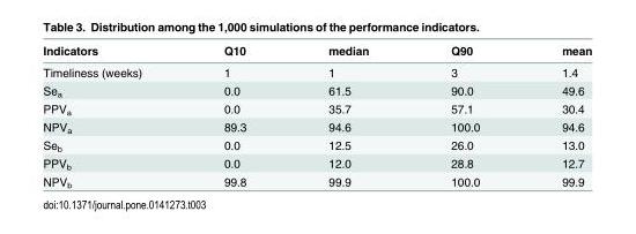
<table><thead><tr><td>Indicators</td><td>Q10</td><td>median</td><td>Q90</td><td>mean</td></tr></thead><tbody><tr><td>Timeliness (weeks)</td><td>1</td><td>1</td><td>3</td><td>1.4</td></tr><tr><td>Se<sub>a</sub></td><td>0.0</td><td>61.5</td><td>90.0</td><td>49.6</td></tr><tr><td>PPV<sub>a</sub></td><td>0.0</td><td>35.7</td><td>57.1</td><td>30.4</td></tr><tr><td>NPV<sub>a</sub></td><td>89.3</td><td>94.6</td><td>100.0</td><td>94.6</td></tr><tr><td>Se<sub>b</sub></td><td>0.0</td><td>12.5</td><td>26.0</td><td>13.0</td></tr><tr><td>PPV<sub>b</sub></td><td>0.0</td><td>12.0</td><td>28.8</td><td>12.7</td></tr><tr><td>NPV<sub>b</sub></td><td>99.8</td><td>99.9</td><td>100.0</td><td>99.9</td></tr></tbody></table>